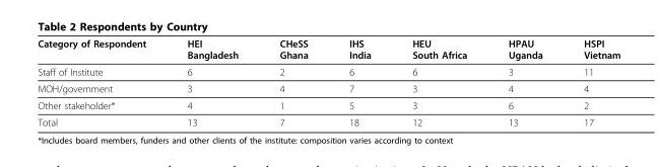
<table><thead><tr><td>Category of Respondent</td><td>HEI Bangladesh</td><td>CHeSS Ghana</td><td>IHS India</td><td>HEU South Africa</td><td>HPAU Uganda</td><td>HSPI Vietnam</td></tr></thead><tbody><tr><td>Staff of Institute</td><td>6</td><td>2</td><td>6</td><td>6</td><td>3</td><td>11</td></tr><tr><td>MOH/government</td><td>3</td><td>4</td><td>7</td><td>3</td><td>4</td><td>4</td></tr><tr><td>Other stakeholder*</td><td>4</td><td>1</td><td>5</td><td>3</td><td>6</td><td>2</td></tr><tr><td>Total</td><td>13</td><td>7</td><td>18</td><td>12</td><td>13</td><td>17</td></tr></tbody></table>